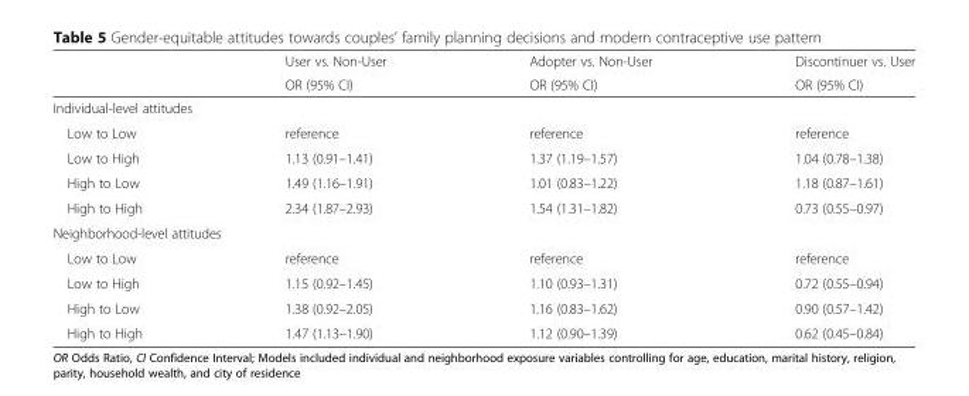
<table><thead><tr><td rowspan="2"></td><td rowspan="2">User vs. Non-User OR (95% CI)</td><td rowspan="2">Adopter vs. Non-User OR (95% CI)</td><td rowspan="2">Discontinuer vs. User OR (95% CI)</td></tr><tr></tr></thead><tbody><tr><td colspan="4">Individual-level attitudes</td></tr><tr><td>Low to Low</td><td>reference</td><td>reference</td><td>reference</td></tr><tr><td>Low to High</td><td>1.13 (0.91–1.41)</td><td>1.37 (1.19–1.57)</td><td>1.04 (0.78–1.38)</td></tr><tr><td>High to Low</td><td>1.49 (1.16–1.91)</td><td>1.01 (0.83–1.22)</td><td>1.18 (0.87–1.61)</td></tr><tr><td>High to High</td><td>2.34 (1.87–2.93)</td><td>1.54 (1.31–1.82)</td><td>0.73 (0.55–0.97)</td></tr><tr><td colspan="4">Neighborhood-level attitudes</td></tr><tr><td>Low to Low</td><td>reference</td><td>reference</td><td>reference</td></tr><tr><td>Low to High</td><td>1.15 (0.92–1.45)</td><td>1.10 (0.93–1.31)</td><td>0.72 (0.55–0.94)</td></tr><tr><td>High to Low</td><td>1.38 (0.92–2.05)</td><td>1.16 (0.83–1.62)</td><td>0.90 (0.57–1.42)</td></tr><tr><td>High to High</td><td>1.47 (1.13–1.90)</td><td>1.12 (0.90–1.39)</td><td>0.62 (0.45–0.84)</td></tr></tbody></table>